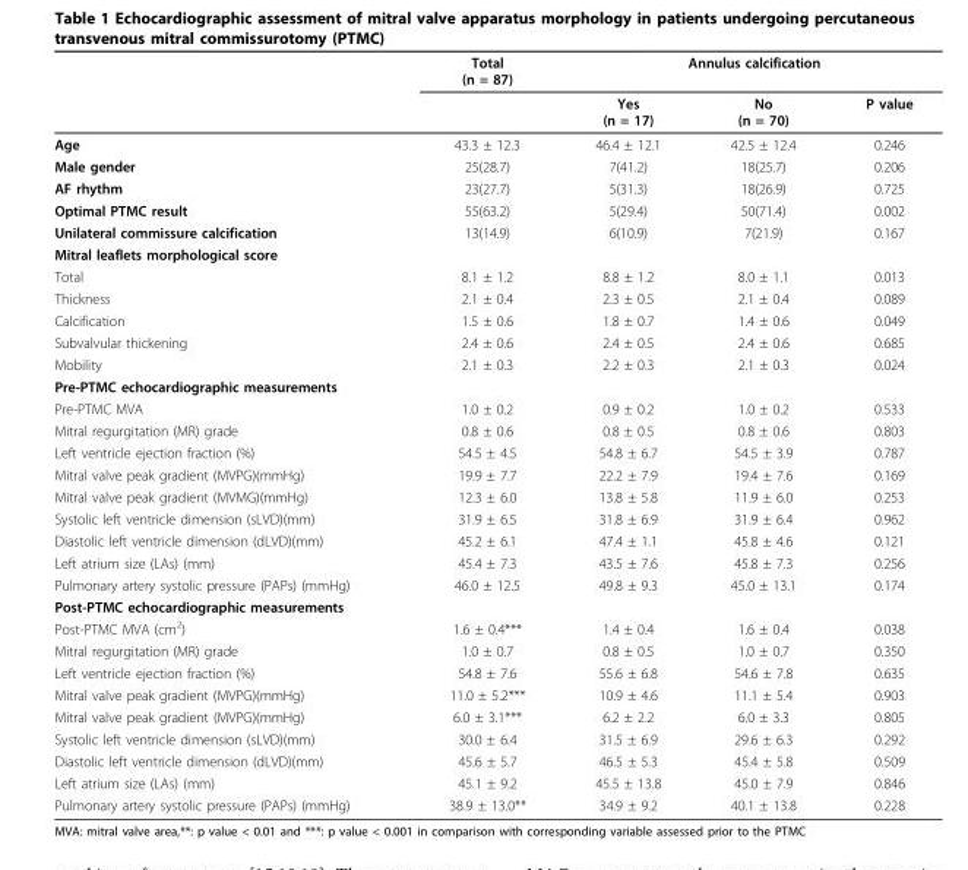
<table><thead><tr><td rowspan="2"></td><td rowspan="2">Total (n = 87)</td><td colspan="3">Annulus calcification</td></tr><tr><td>Yes (n = 17)</td><td>No (n = 70)</td><td>P value</td></tr></thead><tbody><tr><td>Age</td><td>43.3 ± 12.3</td><td>46.4 ± 12.1</td><td>42.5 ± 12.4</td><td>0.246</td></tr><tr><td>Male gender</td><td>25(28.7)</td><td>7(41.2)</td><td>18(25.7)</td><td>0.206</td></tr><tr><td>AF rhythm</td><td>23(27.7)</td><td>5(31.3)</td><td>18(26.9)</td><td>0.725</td></tr><tr><td>Optimal PTMC result</td><td>55(63.2)</td><td>5(29.4)</td><td>50(71.4)</td><td>0.002</td></tr><tr><td>Unilateral commissure calcification</td><td>13(14.9)</td><td>6(10.9)</td><td>7(21.9)</td><td>0.167</td></tr><tr><td colspan="5">Mitral leaflets morphological score</td></tr><tr><td>Total</td><td>8.1 ± 1.2</td><td>8.8 ± 1.2</td><td>8.0 ± 1.1</td><td>0.013</td></tr><tr><td>Thickness</td><td>2.1 ± 0.4</td><td>2.3 ± 0.5</td><td>2.1 ± 0.4</td><td>0.089</td></tr><tr><td>Calcification</td><td>1.5 ± 0.6</td><td>1.8 ± 0.7</td><td>1.4 ± 0.6</td><td>0.049</td></tr><tr><td>Subvalvular thickening</td><td>2.4 ± 0.6</td><td>2.4 ± 0.5</td><td>2.4 ± 0.6</td><td>0.685</td></tr><tr><td>Mobility</td><td>2.1 ± 0.3</td><td>2.2 ± 0.3</td><td>2.1 ± 0.3</td><td>0.024</td></tr><tr><td colspan="5">Pre-PTMC echocardiographic measurements</td></tr><tr><td>Pre-PTMC MVA</td><td>1.0 ± 0.2</td><td>0.9 ± 0.2</td><td>1.0 ± 0.2</td><td>0.533</td></tr><tr><td>Mitral regurgitation (MR) grade</td><td>0.8 ± 0.6</td><td>0.8 ± 0.5</td><td>0.8 ± 0.6</td><td>0.803</td></tr><tr><td>Left ventricle ejection fraction (%)</td><td>54.5 ± 4.5</td><td>54.8 ± 6.7</td><td>54.5 ± 3.9</td><td>0.787</td></tr><tr><td>Mitral valve peak gradient (MVPG)(mmHg)</td><td>19.9 ± 7.7</td><td>22.2 ± 7.9</td><td>19.4 ± 7.6</td><td>0.169</td></tr><tr><td>Mitral valve peak gradient (MVMG)(mmHg)</td><td>12.3 ± 6.0</td><td>13.8 ± 5.8</td><td>11.9 ± 6.0</td><td>0.253</td></tr><tr><td>Systolic left ventricle dimension (sLVD)(mm)</td><td>31.9 ± 6.5</td><td>31.8 ± 6.9</td><td>31.9 ± 6.4</td><td>0.962</td></tr><tr><td>Diastolic left ventricle dimension (dLVD)(mm)</td><td>45.2 ± 6.1</td><td>47.4 ± 1.1</td><td>45.8 ± 4.6</td><td>0.121</td></tr><tr><td>Left atrium size (LAs) (mm)</td><td>45.4 ± 7.3</td><td>43.5 ± 7.6</td><td>45.8 ± 7.3</td><td>0.256</td></tr><tr><td>Pulmonary artery systolic pressure (PAPs) (mmHg)</td><td>46.0 ± 12.5</td><td>49.8 ± 9.3</td><td>45.0 ± 13.1</td><td>0.174</td></tr><tr><td colspan="5">Post-PTMC echocardiographic measurements</td></tr><tr><td>Post-PTMC MVA (cm<sup>2</sup>)</td><td>1.6 ± 0.4***</td><td>1.4 ± 0.4</td><td>1.6 ± 0.4</td><td>0.038</td></tr><tr><td>Mitral regurgitation (MR) grade</td><td>1.0 ± 0.7</td><td>0.8 ± 0.5</td><td>1.0 ± 0.7</td><td>0.350</td></tr><tr><td>Left ventricle ejection fraction (%)</td><td>54.8 ± 7.6</td><td>55.6 ± 6.8</td><td>54.6 ± 7.8</td><td>0.635</td></tr><tr><td>Mitral valve peak gradient (MVPG)(mmHg)</td><td>11.0 ± 5.2***</td><td>10.9 ± 4.6</td><td>11.1 ± 5.4</td><td>0.903</td></tr><tr><td>Mitral valve peak gradient (MVPG)(mmHg)</td><td>6.0 ± 3.1***</td><td>6.2 ± 2.2</td><td>6.0 ± 3.3</td><td>0.805</td></tr><tr><td>Systolic left ventricle dimension (sLVD)(mm)</td><td>30.0 ± 6.4</td><td>31.5 ± 6.9</td><td>29.6 ± 6.3</td><td>0.292</td></tr><tr><td>Diastolic left ventricle dimension (dLVD)(mm)</td><td>45.6 ± 5.7</td><td>46.5 ± 5.3</td><td>45.4 ± 5.8</td><td>0.509</td></tr><tr><td>Left atrium size (LAs) (mm)</td><td>45.1 ± 9.2</td><td>45.5 ± 13.8</td><td>45.0 ± 7.9</td><td>0.846</td></tr><tr><td>Pulmonary artery systolic pressure (PAPs) (mmHg)</td><td>38.9 ± 13.0**</td><td>34.9 ± 9.2</td><td>40.1 ± 13.8</td><td>0.228</td></tr></tbody></table>